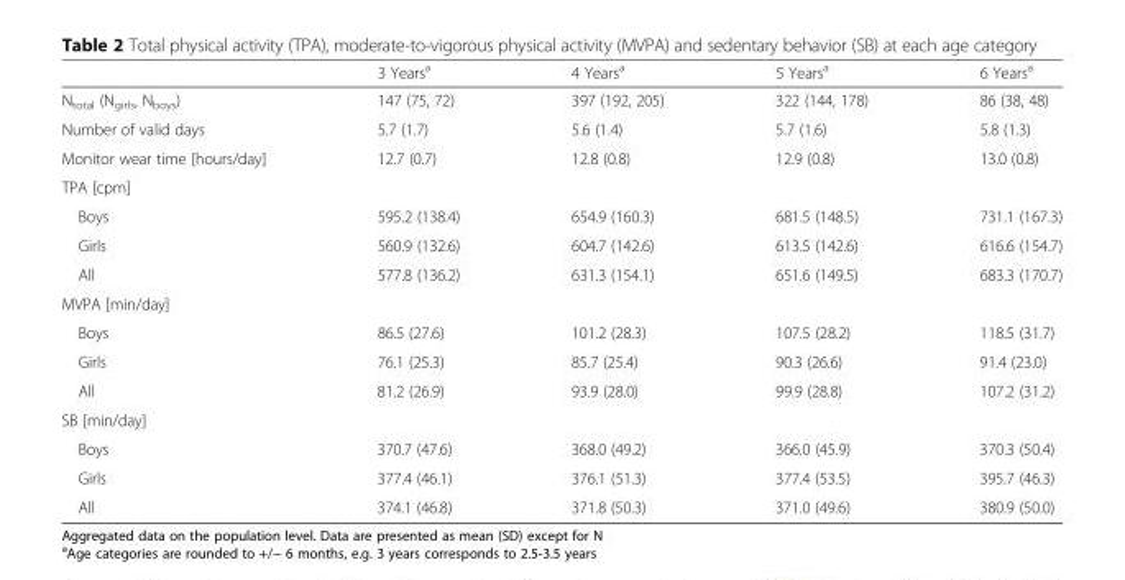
<table><thead><tr><td></td><td>3 Years<sup>a</sup></td><td>4 Years<sup>a</sup></td><td>5 Years<sup>a</sup></td><td>6 Years<sup>a</sup></td></tr></thead><tbody><tr><td>N<sub>total</sub> (N<sub>girls</sub>, N<sub>boys</sub>)</td><td>147 (75, 72)</td><td>397 (192, 205)</td><td>322 (144, 178)</td><td>86 (38, 48)</td></tr><tr><td>Number of valid days</td><td>5.7 (1.7)</td><td>5.6 (1.4)</td><td>5.7 (1.6)</td><td>5.8 (1.3)</td></tr><tr><td>Monitor wear time [hours/day]</td><td>12.7 (0.7)</td><td>12.8 (0.8)</td><td>12.9 (0.8)</td><td>13.0 (0.8)</td></tr><tr><td colspan="5">TPA [cpm]</td></tr><tr><td>Boys</td><td>595.2 (138.4)</td><td>654.9 (160.3)</td><td>681.5 (148.5)</td><td>731.1 (167.3)</td></tr><tr><td>Girls</td><td>560.9 (132.6)</td><td>604.7 (142.6)</td><td>613.5 (142.6)</td><td>616.6 (154.7)</td></tr><tr><td>All</td><td>577.8 (136.2)</td><td>631.3 (154.1)</td><td>651.6 (149.5)</td><td>683.3 (170.7)</td></tr><tr><td colspan="5">MVPA [min/day]</td></tr><tr><td>Boys</td><td>86.5 (27.6)</td><td>101.2 (28.3)</td><td>107.5 (28.2)</td><td>118.5 (31.7)</td></tr><tr><td>Girls</td><td>76.1 (25.3)</td><td>85.7 (25.4)</td><td>90.3 (26.6)</td><td>91.4 (23.0)</td></tr><tr><td>All</td><td>81.2 (26.9)</td><td>93.9 (28.0)</td><td>99.9 (28.8)</td><td>107.2 (31.2)</td></tr><tr><td colspan="5">SB [min/day]</td></tr><tr><td>Boys</td><td>370.7 (47.6)</td><td>368.0 (49.2)</td><td>366.0 (45.9)</td><td>370.3 (50.4)</td></tr><tr><td>Girls</td><td>377.4 (46.1)</td><td>376.1 (51.3)</td><td>377.4 (53.5)</td><td>395.7 (46.3)</td></tr><tr><td>All</td><td>374.1 (46.8)</td><td>371.8 (50.3)</td><td>371.0 (49.6)</td><td>380.9 (50.0)</td></tr></tbody></table>